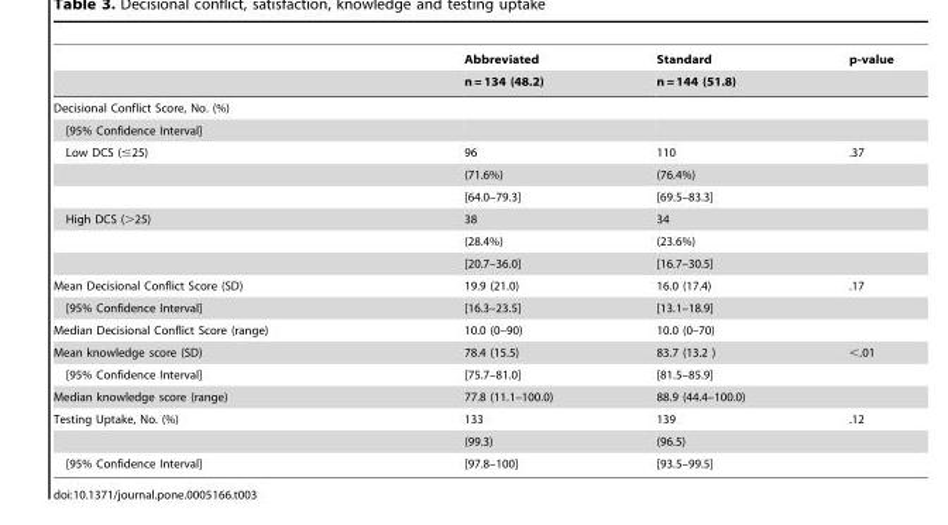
<table><thead><tr><td rowspan="2"></td><td rowspan="2">Abbreviated n = 134 (48.2)</td><td rowspan="2">Standard n = 144 (51.8)</td><td rowspan="2">p-value</td></tr><tr></tr></thead><tbody><tr><td colspan="4">Decisional Conflict Score, No. (%)</td></tr><tr><td colspan="4">[95% Confidence Interval]</td></tr><tr><td rowspan="3">Low DCS (≤25)</td><td>96</td><td>110</td><td>.37</td></tr><tr><td>(71.6%)</td><td>(76.4%)</td><td></td></tr><tr><td>[64.0–79.3]</td><td>[69.5–83.3]</td><td></td></tr><tr><td rowspan="3">High DCS (&gt;25)</td><td>38</td><td>34</td><td></td></tr><tr><td>(28.4%)</td><td>(23.6%)</td><td></td></tr><tr><td>[20.7–36.0]</td><td>[16.7–30.5]</td><td></td></tr><tr><td>Mean Decisional Conflict Score (SD)</td><td>19.9 (21.0)</td><td>16.0 (17.4)</td><td>.17</td></tr><tr><td>[95% Confidence Interval]</td><td>[16.3–23.5]</td><td>[13.1–18.9]</td><td></td></tr><tr><td>Median Decisional Conflict Score (range)</td><td>10.0 (0–90)</td><td>10.0 (0–70)</td><td></td></tr><tr><td>Mean knowledge score (SD)</td><td>78.4 (15.5)</td><td>83.7 (13.2 )</td><td>&lt;.01</td></tr><tr><td>[95% Confidence Interval]</td><td>[75.7–81.0]</td><td>[81.5–85.9]</td><td></td></tr><tr><td>Median knowledge score (range)</td><td>77.8 (11.1–100.0)</td><td>88.9 (44.4–100.0)</td><td></td></tr><tr><td rowspan="2">Testing Uptake, No. (%)</td><td>133</td><td>139</td><td>.12</td></tr><tr><td>(99.3)</td><td>(96.5)</td><td></td></tr><tr><td>[95% Confidence Interval]</td><td>[97.8–100]</td><td>[93.5–99.5]</td><td></td></tr></tbody></table>